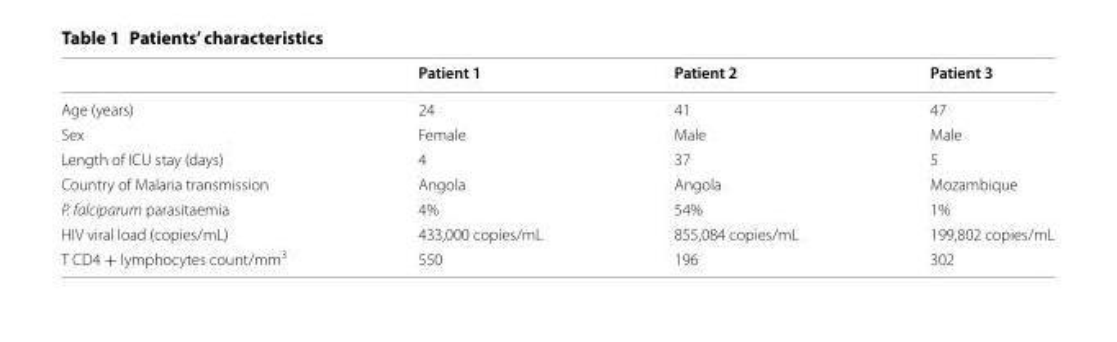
<table><thead><tr><td></td><td>Patient 1</td><td>Patient 2</td><td>Patient 3</td></tr></thead><tbody><tr><td>Age (years)</td><td>24</td><td>41</td><td>47</td></tr><tr><td>Sex</td><td>Female</td><td>Male</td><td>Male</td></tr><tr><td>Length of ICU stay (days)</td><td>4</td><td>37</td><td>5</td></tr><tr><td>Country of Malaria transmission</td><td>Angola</td><td>Angola</td><td>Mozambique</td></tr><tr><td>P. falciparum parasitaemia</td><td>4%</td><td>54%</td><td>1%</td></tr><tr><td>HIV viral load (copies/mL)</td><td>433,000 copies/mL</td><td>855,084 copies/mL</td><td>199,802 copies/mL</td></tr><tr><td>T CD4 + lymphocytes count/mm<sup>3</sup></td><td>550</td><td>196</td><td>302</td></tr></tbody></table>